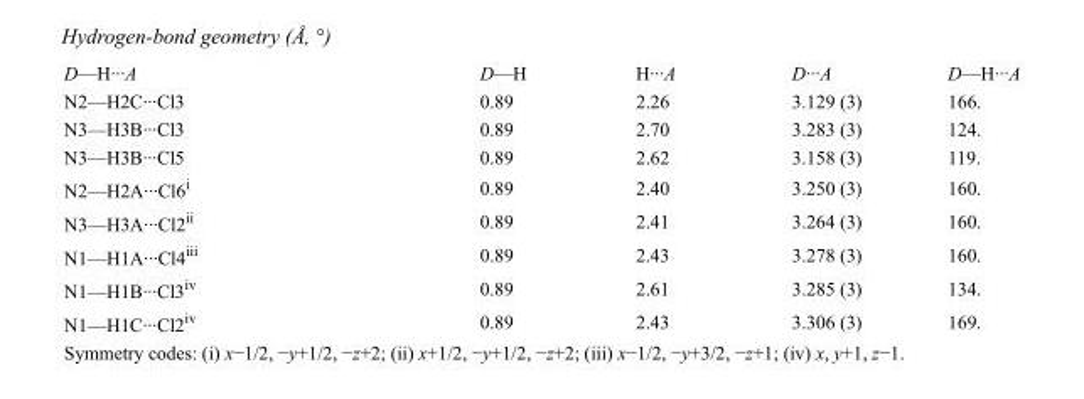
<table><tbody><tr><td>D—H···A</td><td>D—H</td><td>H···A</td><td>D···A</td><td>D—H···A</td></tr><tr><td>N2—H2C···Cl3</td><td>0.89</td><td>2.26</td><td>3.129 (3)</td><td>166.</td></tr><tr><td>N3—H3B···Cl3</td><td>0.89</td><td>2.70</td><td>3.283 (3)</td><td>124.</td></tr><tr><td>N3—H3B···Cl5</td><td>0.89</td><td>2.62</td><td>3.158 (3)</td><td>119.</td></tr><tr><td>N2—H2A···Cl6<sup>i</sup></td><td>0.89</td><td>2.40</td><td>3.250 (3)</td><td>160.</td></tr><tr><td>N3—H3A···Cl2<sup>ii</sup></td><td>0.89</td><td>2.41</td><td>3.264 (3)</td><td>160.</td></tr><tr><td>N1—H1A···Cl4<sup>iii</sup></td><td>0.89</td><td>2.43</td><td>3.278 (3)</td><td>160.</td></tr><tr><td>N1—H1B···Cl3<sup>iv</sup></td><td>0.89</td><td>2.61</td><td>3.285 (3)</td><td>134.</td></tr><tr><td>N1—H1C···Cl2<sup>iv</sup></td><td>0.89</td><td>2.43</td><td>3.306 (3)</td><td>169.</td></tr></tbody></table>